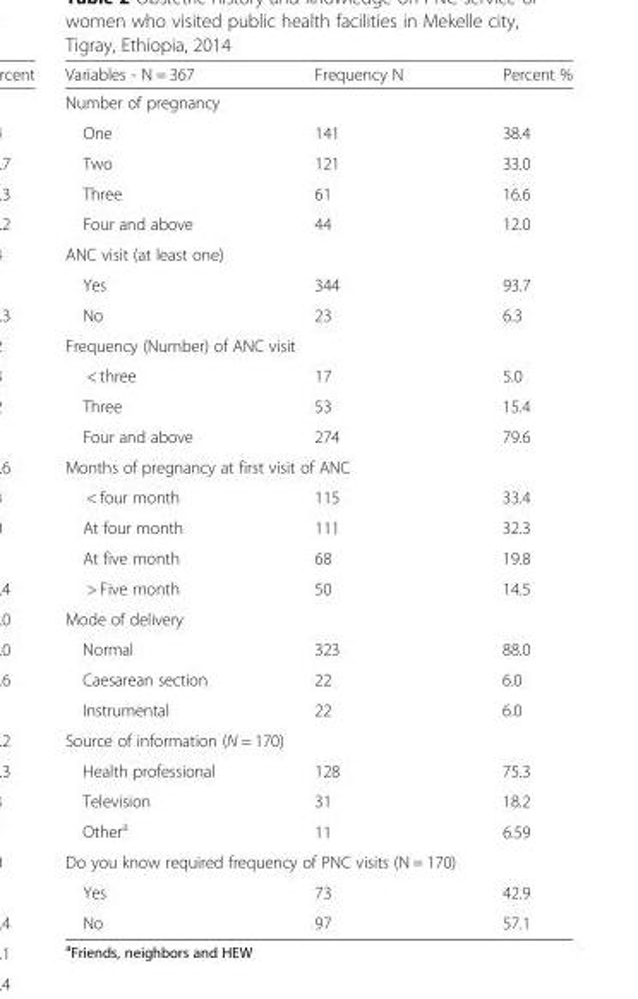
<table><thead><tr><td>Variables - N = 367</td><td>Frequency N</td><td>Percent %</td></tr></thead><tbody><tr><td colspan="3">Number of pregnancy</td></tr><tr><td>One</td><td>141</td><td>38.4</td></tr><tr><td>Two</td><td>121</td><td>33.0</td></tr><tr><td>Three</td><td>61</td><td>16.6</td></tr><tr><td>Four and above</td><td>44</td><td>12.0</td></tr><tr><td colspan="3">ANC visit (at least one)</td></tr><tr><td>Yes</td><td>344</td><td>93.7</td></tr><tr><td>No</td><td>23</td><td>6.3</td></tr><tr><td colspan="3">Frequency (Number) of ANC visit</td></tr><tr><td>&lt; three</td><td>17</td><td>5.0</td></tr><tr><td>Three</td><td>53</td><td>15.4</td></tr><tr><td>Four and above</td><td>274</td><td>79.6</td></tr><tr><td colspan="3">Months of pregnancy at first visit of ANC</td></tr><tr><td>&lt; four month</td><td>115</td><td>33.4</td></tr><tr><td>At four month</td><td>111</td><td>32.3</td></tr><tr><td>At five month</td><td>68</td><td>19.8</td></tr><tr><td>&gt; Five month</td><td>50</td><td>14.5</td></tr><tr><td colspan="3">Mode of delivery</td></tr><tr><td>Normal</td><td>323</td><td>88.0</td></tr><tr><td>Caesarean section</td><td>22</td><td>6.0</td></tr><tr><td>Instrumental</td><td>22</td><td>6.0</td></tr><tr><td colspan="3">Source of information (N = 170)</td></tr><tr><td>Health professional</td><td>128</td><td>75.3</td></tr><tr><td>Television</td><td>31</td><td>18.2</td></tr><tr><td>Other<sup>a</sup></td><td>11</td><td>6.59</td></tr><tr><td colspan="3">Do you know required frequency of PNC visits (N = 170)</td></tr><tr><td>Yes</td><td>73</td><td>42.9</td></tr><tr><td>No</td><td>97</td><td>57.1</td></tr></tbody></table>